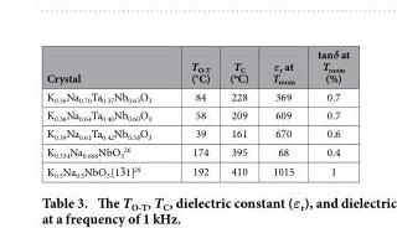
<table><thead><tr><td>Crystal</td><td>T<sub>O-T</sub> (°C)</td><td>T<sub>C</sub> (<sup>o</sup>C)</td><td>ε<sub>r</sub> at T<sub>room</sub></td><td>tanδ at T<sub>room</sub> (%)</td></tr></thead><tbody><tr><td>K<sub>0.30</sub>Na<sub>0.70</sub>Ta<sub>0.37</sub>Nb<sub>0.63</sub>O<sub>3</sub></td><td>84</td><td>228</td><td>369</td><td>0.7</td></tr><tr><td>K<sub>0.36</sub>Na<sub>0.64</sub>Ta<sub>0.40</sub>Nb<sub>0.60</sub>O<sub>3</sub></td><td>58</td><td>209</td><td>609</td><td>0.7</td></tr><tr><td>K<sub>0.39</sub>Na<sub>0.61</sub>Ta<sub>0.42</sub>Nb<sub>0.58</sub>O<sub>3</sub></td><td>39</td><td>161</td><td>670</td><td>0.6</td></tr><tr><td>K<sub>0.334</sub>Na<sub>0.666</sub>NbO<sub>3</sub> <sup>26</sup></td><td>174</td><td>395</td><td>68</td><td>0.4</td></tr><tr><td>K0.5Na0.5NbO3 [131]29</td><td>192</td><td>410</td><td>1015</td><td>1</td></tr></tbody></table>